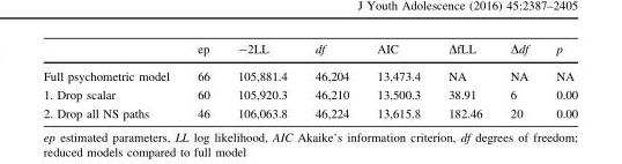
<table><thead><tr><td></td><td>ep</td><td>-2LL</td><td>df</td><td>AIC</td><td>ΔfLL</td><td>Δdf</td><td>p</td></tr></thead><tbody><tr><td>Full psychometric model</td><td>66</td><td>105,881.4</td><td>46,204</td><td>13,473.4</td><td>NA</td><td>NA</td><td>NA</td></tr><tr><td>1. Drop scalar</td><td>60</td><td>105,920.3</td><td>46,210</td><td>13,500.3</td><td>38.91</td><td>6</td><td>0.00</td></tr><tr><td>2. Drop all NS paths</td><td>46</td><td>106,063.8</td><td>46,224</td><td>13,615.8</td><td>182.46</td><td>20</td><td>0.00</td></tr></tbody></table>